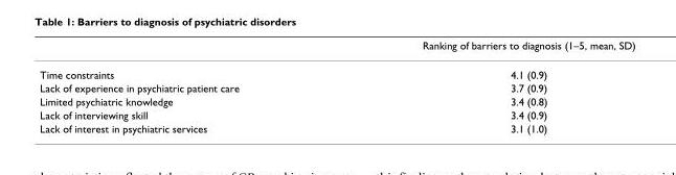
<table><thead><tr><td></td><td>Ranking of barriers to diagnosis (1–5, mean, SD)</td></tr></thead><tbody><tr><td>Time constraints</td><td>4.1 (0.9)</td></tr><tr><td>Lack of experience in psychiatric patient care</td><td>3.7 (0.9)</td></tr><tr><td>Limited psychiatric knowledge</td><td>3.4 (0.8)</td></tr><tr><td>Lack of interviewing skill</td><td>3.4 (0.9)</td></tr><tr><td>Lack of interest in psychiatric services</td><td>3.1 (1.0)</td></tr></tbody></table>